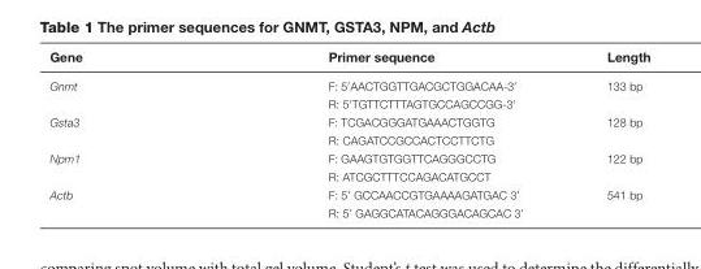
<table><thead><tr><td>Gene</td><td>Primer sequence</td><td>Length</td></tr></thead><tbody><tr><td rowspan="2">Gnmt</td><td>F: 5′AACTGGTTGACGCTGGACAA-3′</td><td>133 bp</td></tr><tr><td>R: 5′TGTTCTTTAGTGCCAGCCGG-3′</td><td></td></tr><tr><td rowspan="2">Gsta3</td><td>F: TCGACGGGATGAAACTGGTG</td><td>128 bp</td></tr><tr><td>R: CAGATCCGCCACTCCTTCTG</td><td></td></tr><tr><td rowspan="2">Npm1</td><td>F: GAAGTGTGGTTCAGGGCCTG</td><td>122 bp</td></tr><tr><td>R: ATCGCTTTCCAGACATGCCT</td><td></td></tr><tr><td rowspan="2">Actb</td><td>F: 5’ GCCAACCGTGAAAAGATGAC 3’</td><td>541 bp</td></tr><tr><td>R: 5’ GAGGCATACAGGGACAGCAC 3’</td><td></td></tr></tbody></table>